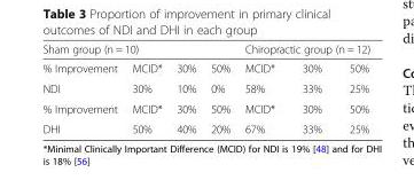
<table><thead><tr><td colspan="4">Sham group (n = 10)</td><td colspan="3">Chiropractic group (n = 12)</td></tr><tr><td>% Improvement</td><td>MCID*</td><td>30%</td><td>50%</td><td>MCID*</td><td>30%</td><td>50%</td></tr></thead><tbody><tr><td>NDI</td><td>30%</td><td>10%</td><td>0%</td><td>58%</td><td>33%</td><td>25%</td></tr><tr><td>% Improvement</td><td>MCID*</td><td>30%</td><td>50%</td><td>MCID*</td><td>30%</td><td>50%</td></tr><tr><td>DHI</td><td>50%</td><td>40%</td><td>20%</td><td>67%</td><td>33%</td><td>25%</td></tr></tbody></table>